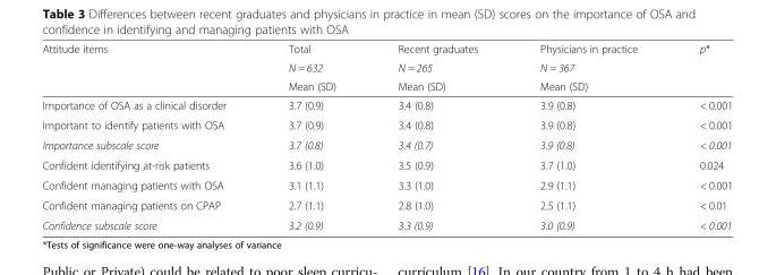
<table><thead><tr><td rowspan="3">Attitude items</td><td rowspan="3">Total N = 632 Mean (SD)</td><td rowspan="3">Recent graduates N = 265 Mean (SD)</td><td rowspan="3">Physicians in practice N = 367 Mean (SD)</td><td rowspan="3">p*</td></tr><tr></tr><tr></tr></thead><tbody><tr><td>Importance of OSA as a clinical disorder</td><td>3.7 (0.9)</td><td>3.4 (0.8)</td><td>3.9 (0.8)</td><td>&lt; 0.001</td></tr><tr><td>Important to identify patients with OSA</td><td>3.7 (0.9)</td><td>3.4 (0.8)</td><td>3.9 (0.8)</td><td>&lt; 0.001</td></tr><tr><td>Importance subscale score</td><td>3.7 (0.8)</td><td>3.4 (0.7)</td><td>3.9 (0.8)</td><td>&lt; 0.001</td></tr><tr><td>Confident identifying at-risk patients</td><td>3.6 (1.0)</td><td>3.5 (0.9)</td><td>3.7 (1.0)</td><td>0.024</td></tr><tr><td>Confident managing patients with OSA</td><td>3.1 (1.1)</td><td>3.3 (1.0)</td><td>2.9 (1.1)</td><td>&lt; 0.001</td></tr><tr><td>Confident managing patients on CPAP</td><td>2.7 (1.1)</td><td>2.8 (1.0)</td><td>2.5 (1.1)</td><td>&lt; 0.01</td></tr><tr><td>Confidence subscale score</td><td>3.2 (0.9)</td><td>3.3 (0.9)</td><td>3.0 (0.9)</td><td>&lt; 0.001</td></tr></tbody></table>